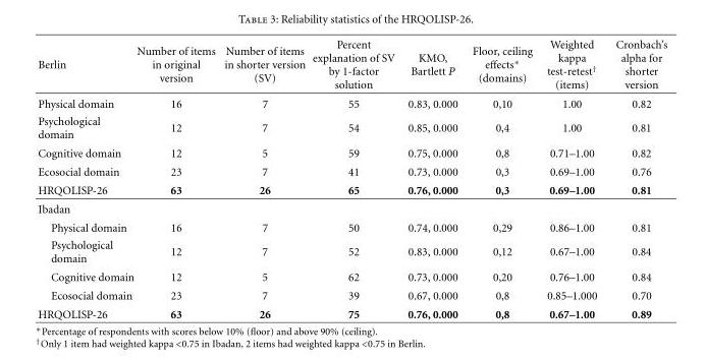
<table><thead><tr><td>Berlin</td><td>Number of items in original version</td><td>Number of items in shorter version (SV)</td><td>Percent explanation of SV by 1-factor solution</td><td>KMO, Bartlett P</td><td>Floor, ceiling effects∗ (domains)</td><td>Weighted kappa test-retest<sup>†</sup> (items)</td><td>Cronbach’s alpha for shorter version</td></tr></thead><tbody><tr><td>Physical domain</td><td>16</td><td>7</td><td>55</td><td>0.83, 0.000</td><td>0,10</td><td>1.00</td><td>0.82</td></tr><tr><td>Psychological domain</td><td>12</td><td>7</td><td>54</td><td>0.85, 0.000</td><td>0,4</td><td>1.00</td><td>0.81</td></tr><tr><td>Cognitive domain</td><td>12</td><td>5</td><td>59</td><td>0.75, 0.000</td><td>0,8</td><td>0.71–1.00</td><td>0.82</td></tr><tr><td>Ecosocial domain</td><td>23</td><td>7</td><td>41</td><td>0.73, 0.000</td><td>0,3</td><td>0.69–1.00</td><td>0.76</td></tr><tr><td>HRQOLISP-26</td><td>63</td><td>26</td><td>65</td><td>0.76, 0.000</td><td>0,3</td><td>0.69–1.00</td><td>0.81</td></tr><tr><td colspan="8">Ibadan</td></tr><tr><td>Physical domain</td><td>16</td><td>7</td><td>50</td><td>0.74, 0.000</td><td>0,29</td><td>0.86–1.00</td><td>0.81</td></tr><tr><td>Psychological domain</td><td>12</td><td>7</td><td>52</td><td>0.83, 0.000</td><td>0,12</td><td>0.67–1.00</td><td>0.84</td></tr><tr><td>Cognitive domain</td><td>12</td><td>5</td><td>62</td><td>0.73, 0.000</td><td>0,20</td><td>0.76–1.00</td><td>0.84</td></tr><tr><td>Ecosocial domain</td><td>23</td><td>7</td><td>39</td><td>0.67, 0.000</td><td>0,8</td><td>0.85–1.000</td><td>0.70</td></tr><tr><td>HRQOLISP-26</td><td>63</td><td>26</td><td>75</td><td>0.76, 0.000</td><td>0,8</td><td>0.67–1.00</td><td>0.89</td></tr></tbody></table>